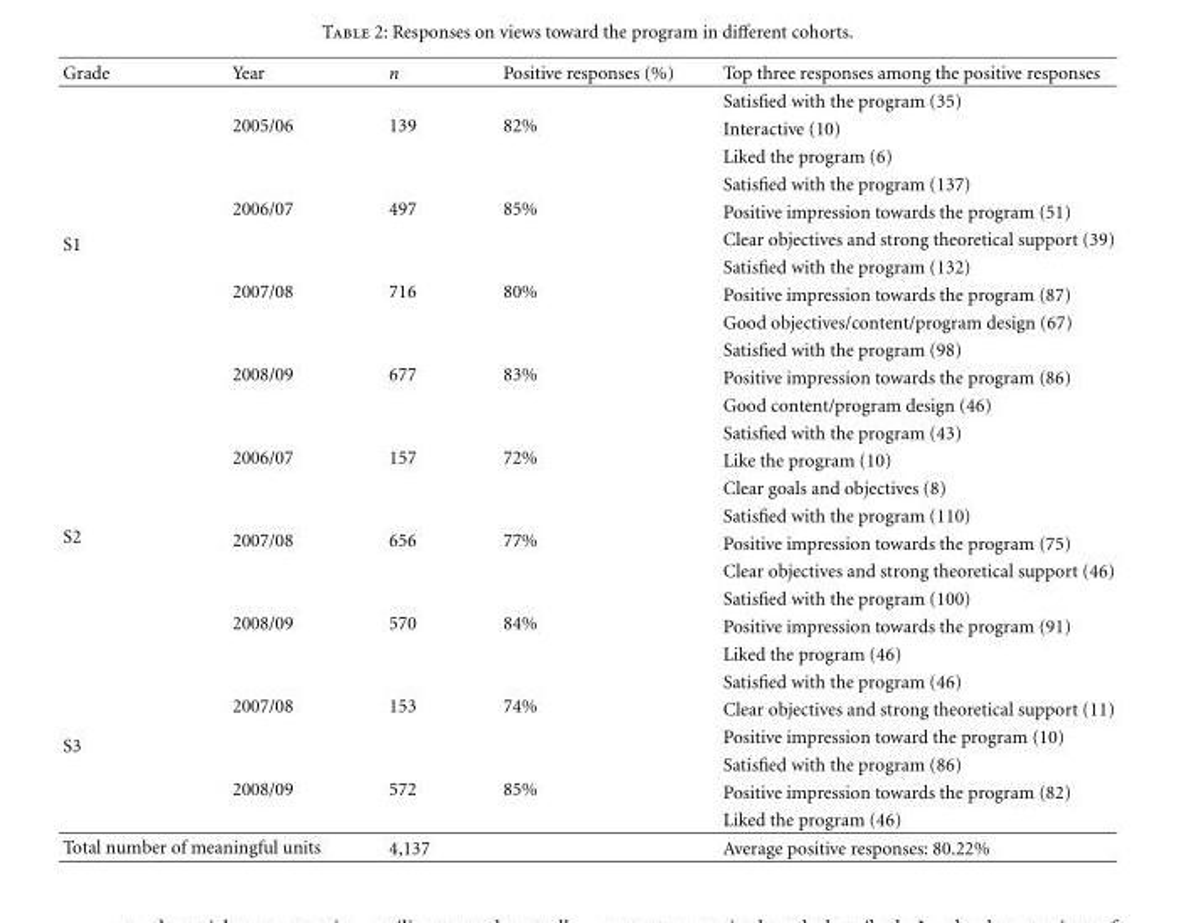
<table><thead><tr><td>Grade</td><td>Year</td><td>n</td><td>Positive responses (%)</td><td>Top three responses among the positive responses</td></tr></thead><tbody><tr><td rowspan="12">S1</td><td rowspan="3">2005/06</td><td rowspan="3">139</td><td rowspan="3">82%</td><td>Satisfied with the program (35)</td></tr><tr><td>Interactive (10)</td></tr><tr><td>Liked the program (6)</td></tr><tr><td rowspan="3">2006/07</td><td rowspan="3">497</td><td rowspan="3">85%</td><td>Satisfied with the program (137)</td></tr><tr><td>Positive impression towards the program (51)</td></tr><tr><td>Clear objectives and strong theoretical support (39)</td></tr><tr><td rowspan="3">2007/08</td><td rowspan="3">716</td><td rowspan="3">80%</td><td>Satisfied with the program (132)</td></tr><tr><td>Positive impression towards the program (87)</td></tr><tr><td>Good objectives/content/program design (67)</td></tr><tr><td rowspan="3">2008/09</td><td rowspan="3">677</td><td rowspan="3">83%</td><td>Satisfied with the program (98)</td></tr><tr><td>Positive impression towards the program (86)</td></tr><tr><td>Good content/program design (46)</td></tr><tr><td rowspan="9">S2</td><td rowspan="3">2006/07</td><td rowspan="3">157</td><td rowspan="3">72%</td><td>Satisfied with the program (43)</td></tr><tr><td>Like the program (10)</td></tr><tr><td>Clear goals and objectives (8)</td></tr><tr><td rowspan="3">2007/08</td><td rowspan="3">656</td><td rowspan="3">77%</td><td>Satisfied with the program (110)</td></tr><tr><td>Positive impression towards the program (75)</td></tr><tr><td>Clear objectives and strong theoretical support (46)</td></tr><tr><td rowspan="3">2008/09</td><td rowspan="3">570</td><td rowspan="3">84%</td><td>Satisfied with the program (100)</td></tr><tr><td>Positive impression towards the program (91)</td></tr><tr><td>Liked the program (46)</td></tr><tr><td rowspan="6">S3</td><td rowspan="3">2007/08</td><td rowspan="3">153</td><td rowspan="3">74%</td><td>Satisfied with the program (46)</td></tr><tr><td>Clear objectives and strong theoretical support (11)</td></tr><tr><td>Positive impression toward the program (10)</td></tr><tr><td rowspan="3">2008/09</td><td rowspan="3">572</td><td rowspan="3">85%</td><td>Satisfied with the program (86)</td></tr><tr><td>Positive impression towards the program (82)</td></tr><tr><td>Liked the program (46)</td></tr><tr><td colspan="2">Total number of meaningful units</td><td>4,137</td><td></td><td>Average positive responses: 80.22%</td></tr></tbody></table>